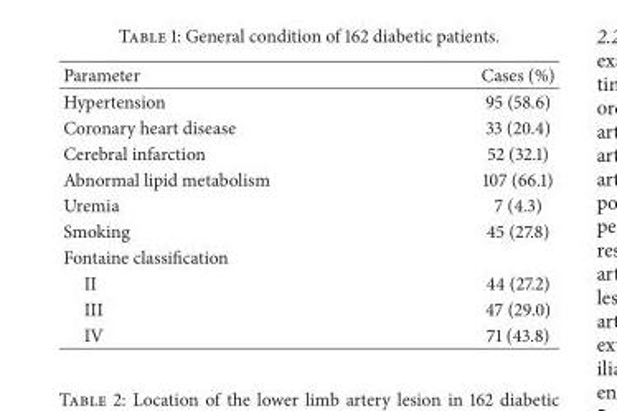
<table><thead><tr><td>Parameter</td><td>Cases (%)</td></tr></thead><tbody><tr><td>Hypertension</td><td>95 (58.6)</td></tr><tr><td>Coronary heart disease</td><td>33 (20.4)</td></tr><tr><td>Cerebral infarction</td><td>52 (32.1)</td></tr><tr><td>Abnormal lipid metabolism</td><td>107 (66.1)</td></tr><tr><td>Uremia</td><td>7 (4.3)</td></tr><tr><td>Smoking</td><td>45 (27.8)</td></tr><tr><td colspan="2">Fontaine classification</td></tr><tr><td>II</td><td>44 (27.2)</td></tr><tr><td>III</td><td>47 (29.0)</td></tr><tr><td>IV</td><td>71 (43.8)</td></tr></tbody></table>